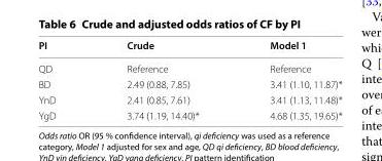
<table><thead><tr><td>PI</td><td>Crude</td><td>Model 1</td></tr></thead><tbody><tr><td>QD</td><td>Reference</td><td>Reference</td></tr><tr><td>BD</td><td>2.49 (0.88, 7.85)</td><td>3.41 (1.10, 11.87)*</td></tr><tr><td>YnD</td><td>2.41 (0.85, 7.61)</td><td>3.41 (1.13, 11.48)*</td></tr><tr><td>YgD</td><td>3.74 (1.19, 14.40)*</td><td>4.68 (1.35, 19.65)*</td></tr></tbody></table>